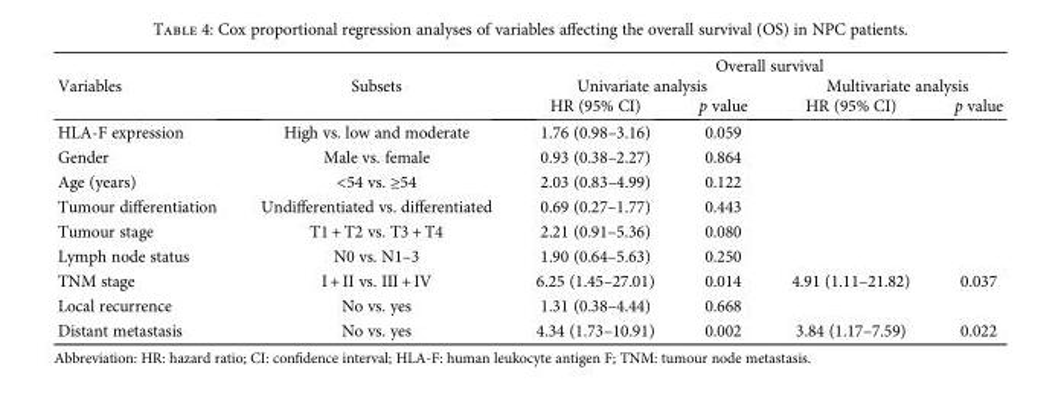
<table><thead><tr><td rowspan="3">Variables</td><td rowspan="3">Subsets</td><td colspan="4">Overall survival</td></tr><tr><td colspan="2">Univariate analysis</td><td colspan="2">Multivariate analysis</td></tr><tr><td>HR (95% CI)</td><td>p value</td><td>HR (95% CI)</td><td>p value</td></tr></thead><tbody><tr><td>HLA-F expression</td><td>High vs. low and moderate</td><td>1.76 (0.98–3.16)</td><td>0.059</td><td></td><td></td></tr><tr><td>Gender</td><td>Male vs. female</td><td>0.93 (0.38–2.27)</td><td>0.864</td><td></td><td></td></tr><tr><td>Age (years)</td><td>&lt;54 vs. ≥54</td><td>2.03 (0.83–4.99)</td><td>0.122</td><td></td><td></td></tr><tr><td>Tumour differentiation</td><td>Undifferentiated vs. differentiated</td><td>0.69 (0.27–1.77)</td><td>0.443</td><td></td><td></td></tr><tr><td>Tumour stage</td><td>T1 + T2 vs. T3 + T4</td><td>2.21 (0.91–5.36)</td><td>0.080</td><td></td><td></td></tr><tr><td>Lymph node status</td><td>N0 vs. N1–3</td><td>1.90 (0.64–5.63)</td><td>0.250</td><td></td><td></td></tr><tr><td>TNM stage</td><td>I + II vs. III + IV</td><td>6.25 (1.45–27.01)</td><td>0.014</td><td>4.91 (1.11–21.82)</td><td>0.037</td></tr><tr><td>Local recurrence</td><td>No vs. yes</td><td>1.31 (0.38–4.44)</td><td>0.668</td><td></td><td></td></tr><tr><td>Distant metastasis</td><td>No vs. yes</td><td>4.34 (1.73–10.91)</td><td>0.002</td><td>3.84 (1.17–7.59)</td><td>0.022</td></tr></tbody></table>